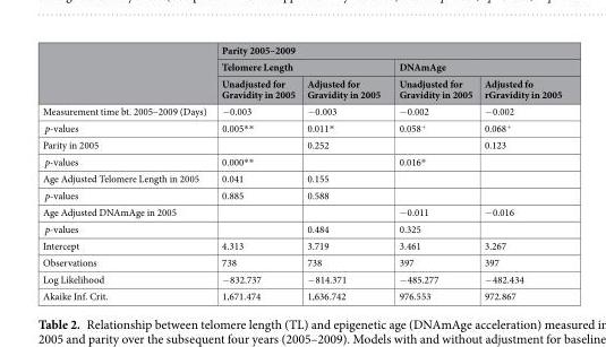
<table><thead><tr><td rowspan="3"></td><td colspan="4">Parity 2005–2009</td></tr><tr><td colspan="2">Telomere Length</td><td colspan="2">DNAmAge</td></tr><tr><td>Unadjusted for Gravidity in 2005</td><td>Adjusted for Gravidity in 2005</td><td>Unadjusted for Gravidity in 2005</td><td>Adjusted fo rGravidity in 2005</td></tr></thead><tbody><tr><td>Measurement time bt. 2005–2009 (Days)</td><td>−0.003</td><td>−0.003</td><td>−0.002</td><td>−0.002</td></tr><tr><td>p-values</td><td>0.005**</td><td>0.011*</td><td>0.058<sup>+</sup></td><td>0.068<sup>+</sup></td></tr><tr><td>Parity in 2005</td><td></td><td>0.252</td><td></td><td>0.123</td></tr><tr><td>p-values</td><td>0.000**</td><td></td><td>0.016*</td><td></td></tr><tr><td>Age Adjusted Telomere Length in 2005</td><td>0.041</td><td>0.155</td><td></td><td></td></tr><tr><td>p-values</td><td>0.885</td><td>0.588</td><td></td><td></td></tr><tr><td>Age Adjusted DNAmAge in 2005</td><td></td><td></td><td>−0.011</td><td>−0.016</td></tr><tr><td>p-values</td><td></td><td>0.484</td><td>0.325</td><td></td></tr><tr><td>Intercept</td><td>4.313</td><td>3.719</td><td>3.461</td><td>3.267</td></tr><tr><td>Observations</td><td>738</td><td>738</td><td>397</td><td>397</td></tr><tr><td>Log Likelihood</td><td>−832.737</td><td>−814.371</td><td>−485.277</td><td>−482.434</td></tr><tr><td>Akaike Inf. Crit.</td><td>1,671.474</td><td>1,636.742</td><td>976.553</td><td>972.867</td></tr></tbody></table>